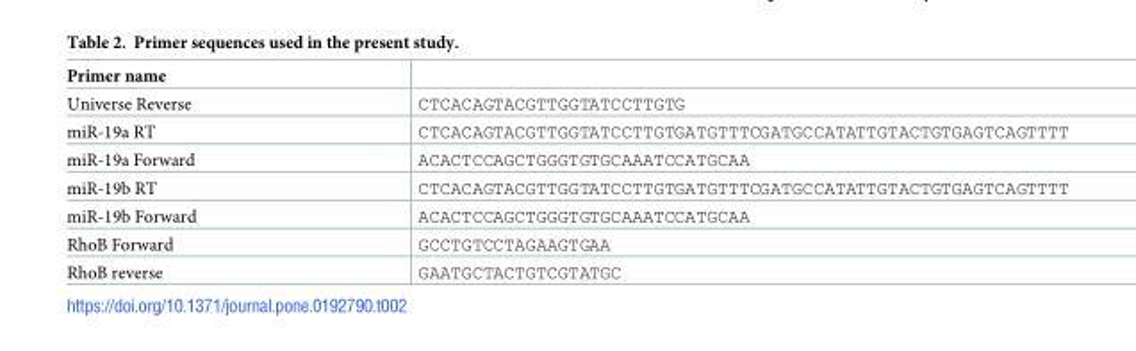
<table><thead><tr><td>Primer name</td><td></td></tr></thead><tbody><tr><td>Universe Reverse</td><td>CTCACAGTACGTTGGTATCCTTGTG</td></tr><tr><td>miR-19a RT</td><td>CTCACAGTACGTTGGTATCCTTGTGATGTTTCGATGCCATATTGTACTGTGAGTCAGTTTT</td></tr><tr><td>miR-19a Forward</td><td>ACACTCCAGCTGGGTGTGCAAATCCATGCAA</td></tr><tr><td>miR-19b RT</td><td>CTCACAGTACGTTGGTATCCTTGTGATGTTTCGATGCCATATTGTACTGTGAGTCAGTTTT</td></tr><tr><td>miR-19b Forward</td><td>ACACTCCAGCTGGGTGTGCAAATCCATGCAA</td></tr><tr><td>RhoB Forward</td><td>GCCTGTCCTAGAAGTGAA</td></tr><tr><td>RhoB reverse</td><td>GAATGCTACTGTCGTATGC</td></tr></tbody></table>